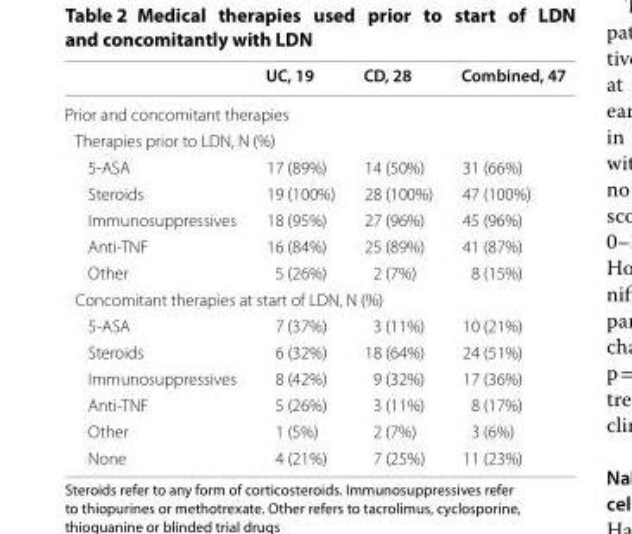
<table><thead><tr><td></td><td>UC, 19</td><td>CD, 28</td><td>Combined, 47</td></tr></thead><tbody><tr><td colspan="4">Prior and concomitant therapies</td></tr><tr><td colspan="4">Therapies prior to LDN, N (%)</td></tr><tr><td>5-ASA</td><td>17 (89%)</td><td>14 (50%)</td><td>31 (66%)</td></tr><tr><td>Steroids</td><td>19 (100%)</td><td>28 (100%)</td><td>47 (100%)</td></tr><tr><td>Immunosuppressives</td><td>18 (95%)</td><td>27 (96%)</td><td>45 (96%)</td></tr><tr><td>Anti-TNF</td><td>16 (84%)</td><td>25 (89%)</td><td>41 (87%)</td></tr><tr><td>Other</td><td>5 (26%)</td><td>2 (7%)</td><td>8 (15%)</td></tr><tr><td colspan="4">Concomitant therapies at start of LDN, N (%)</td></tr><tr><td>5-ASA</td><td>7 (37%)</td><td>3 (11%)</td><td>10 (21%)</td></tr><tr><td>Steroids</td><td>6 (32%)</td><td>18 (64%)</td><td>24 (51%)</td></tr><tr><td>Immunosuppressives</td><td>8 (42%)</td><td>9 (32%)</td><td>17 (36%)</td></tr><tr><td>Anti-TNF</td><td>5 (26%)</td><td>3 (11%)</td><td>8 (17%)</td></tr><tr><td>Other</td><td>1 (5%)</td><td>2 (7%)</td><td>3 (6%)</td></tr><tr><td>None</td><td>4 (21%)</td><td>7 (25%)</td><td>11 (23%)</td></tr></tbody></table>